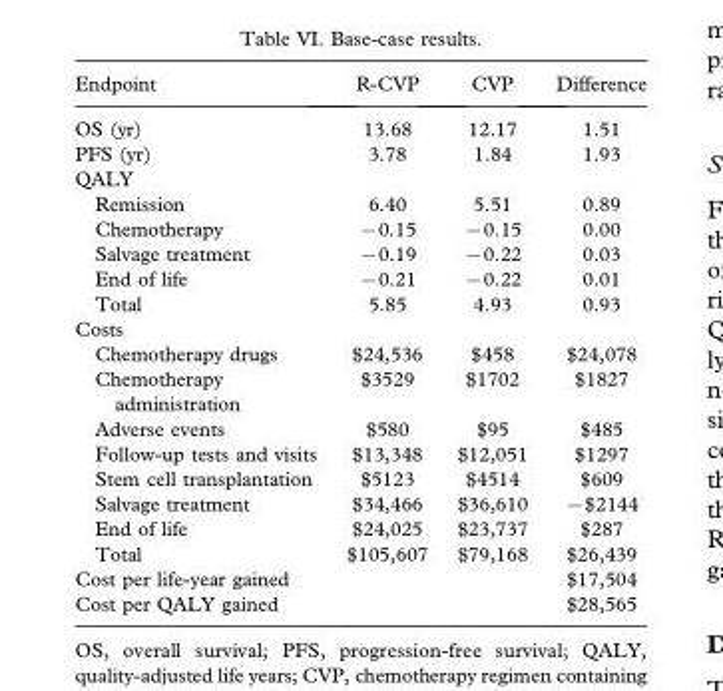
<table><thead><tr><td>Endpoint</td><td>R-CVP</td><td>CVP</td><td>Difference</td></tr></thead><tbody><tr><td>OS (yr)</td><td>13.68</td><td>12.17</td><td>1.51</td></tr><tr><td>PFS (yr)</td><td>3.78</td><td>1.84</td><td>1.93</td></tr><tr><td colspan="4">QALY</td></tr><tr><td>Remission</td><td>6.40</td><td>5.51</td><td>0.89</td></tr><tr><td>Chemotherapy</td><td>70.15</td><td>70.15</td><td>0.00</td></tr><tr><td>Salvage treatment</td><td>70.19</td><td>70.22</td><td>0.03</td></tr><tr><td>End of life</td><td>70.21</td><td>70.22</td><td>0.01</td></tr><tr><td>Total</td><td>5.85</td><td>4.93</td><td>0.93</td></tr><tr><td colspan="4">Costs</td></tr><tr><td>Chemotherapy drugs</td><td>$24,536</td><td>$458</td><td>$24,078</td></tr><tr><td>Chemotherapy administration</td><td>$3529</td><td>$1702</td><td>$1827</td></tr><tr><td>Adverse events</td><td>$580</td><td>$95</td><td>$485</td></tr><tr><td>Follow-up tests and visits</td><td>$13,348</td><td>$12,051</td><td>$1297</td></tr><tr><td>Stem cell transplantation</td><td>$5123</td><td>$4514</td><td>$609</td></tr><tr><td>Salvage treatment</td><td>$34,466</td><td>$36,610</td><td>−$2144</td></tr><tr><td>End of life</td><td>$24,025</td><td>$23,737</td><td>$287</td></tr><tr><td>Total</td><td>$105,607</td><td>$79,168</td><td>$26,439</td></tr><tr><td>Cost per life-year gained</td><td></td><td></td><td>$17,504</td></tr><tr><td>Cost per QALY gained</td><td></td><td></td><td>$28,565</td></tr></tbody></table>